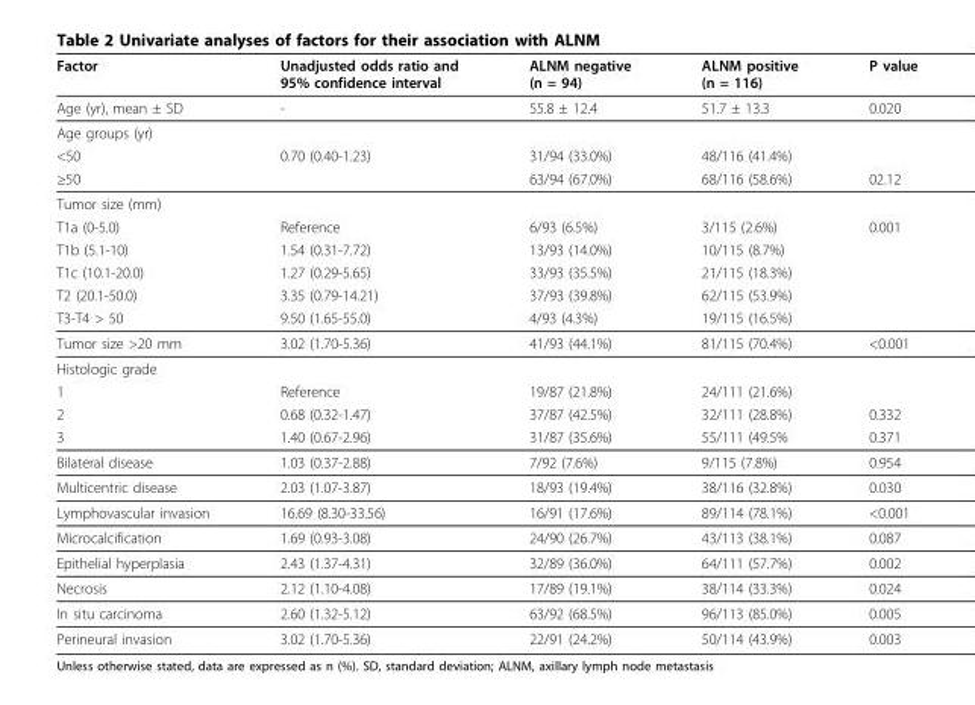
<table><thead><tr><td>Factor</td><td>Unadjusted odds ratio and 95% confidence interval</td><td>ALNM negative (n = 94)</td><td>ALNM positive (n = 116)</td><td>P value</td></tr></thead><tbody><tr><td>Age (yr), mean ± SD</td><td>-</td><td>55.8 ± 12.4</td><td>51.7 ± 13.3</td><td>0.020</td></tr><tr><td colspan="5">Age groups (yr)</td></tr><tr><td>&lt;50</td><td>0.70 (0.40-1.23)</td><td>31/94 (33.0%)</td><td>48/116 (41.4%)</td><td></td></tr><tr><td>≥50</td><td></td><td>63/94 (67.0%)</td><td>68/116 (58.6%)</td><td>02.12</td></tr><tr><td colspan="5">Tumor size (mm)</td></tr><tr><td>T1a (0-5.0)</td><td>Reference</td><td>6/93 (6.5%)</td><td>3/115 (2.6%)</td><td>0.001</td></tr><tr><td>T1b (5.1-10)</td><td>1.54 (0.31-7.72)</td><td>13/93 (14.0%)</td><td>10/115 (8.7%)</td><td></td></tr><tr><td>T1c (10.1-20.0)</td><td>1.27 (0.29-5.65)</td><td>33/93 (35.5%)</td><td>21/115 (18.3%)</td><td></td></tr><tr><td>T2 (20.1-50.0)</td><td>3.35 (0.79-14.21)</td><td>37/93 (39.8%)</td><td>62/115 (53.9%)</td><td></td></tr><tr><td>T3-T4 &gt; 50</td><td>9.50 (1.65-55.0)</td><td>4/93 (4.3%)</td><td>19/115 (16.5%)</td><td></td></tr><tr><td>Tumor size &gt;20 mm</td><td>3.02 (1.70-5.36)</td><td>41/93 (44.1%)</td><td>81/115 (70.4%)</td><td>&lt;0.001</td></tr><tr><td colspan="5">Histologic grade</td></tr><tr><td>1</td><td>Reference</td><td>19/87 (21.8%)</td><td>24/111 (21.6%)</td><td></td></tr><tr><td>2</td><td>0.68 (0.32-1.47)</td><td>37/87 (42.5%)</td><td>32/111 (28.8%)</td><td>0.332</td></tr><tr><td>3</td><td>1.40 (0.67-2.96)</td><td>31/87 (35.6%)</td><td>55/111 (49.5%</td><td>0.371</td></tr><tr><td>Bilateral disease</td><td>1.03 (0.37-2.88)</td><td>7/92 (7.6%)</td><td>9/115 (7.8%)</td><td>0.954</td></tr><tr><td>Multicentric disease</td><td>2.03 (1.07-3.87)</td><td>18/93 (19.4%)</td><td>38/116 (32.8%)</td><td>0.030</td></tr><tr><td>Lymphovascular invasion</td><td>16.69 (8.30-33.56)</td><td>16/91 (17.6%)</td><td>89/114 (78.1%)</td><td>&lt;0.001</td></tr><tr><td>Microcalcification</td><td>1.69 (0.93-3.08)</td><td>24/90 (26.7%)</td><td>43/113 (38.1%)</td><td>0.087</td></tr><tr><td>Epithelial hyperplasia</td><td>2.43 (1.37-4.31)</td><td>32/89 (36.0%)</td><td>64/111 (57.7%)</td><td>0.002</td></tr><tr><td>Necrosis</td><td>2.12 (1.10-4.08)</td><td>17/89 (19.1%)</td><td>38/114 (33.3%)</td><td>0.024</td></tr><tr><td>In situ carcinoma</td><td>2.60 (1.32-5.12)</td><td>63/92 (68.5%)</td><td>96/113 (85.0%)</td><td>0.005</td></tr><tr><td>Perineural invasion</td><td>3.02 (1.70-5.36)</td><td>22/91 (24.2%)</td><td>50/114 (43.9%)</td><td>0.003</td></tr></tbody></table>